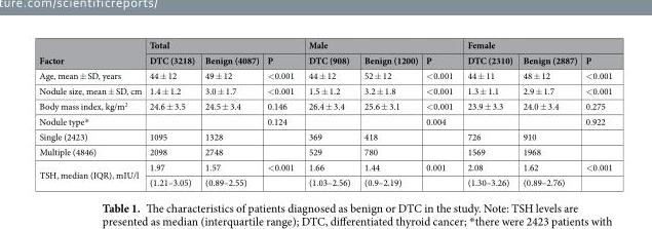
<table><thead><tr><td rowspan="2">Factor</td><td colspan="3">Total</td><td colspan="3">Male</td><td colspan="3">Female</td></tr><tr><td>DTC (3218)</td><td>Benign (4087)</td><td>P</td><td>DTC (908)</td><td>Benign (1200)</td><td>P</td><td>DTC (2310)</td><td>Benign (2887)</td><td>P</td></tr></thead><tbody><tr><td>Age, mean ± SD, years</td><td>44 ± 12</td><td>49 ± 12</td><td>&lt;0.001</td><td>44 ± 12</td><td>52 ± 12</td><td>&lt;0.001</td><td>44 ± 11</td><td>48 ± 12</td><td>&lt;0.001</td></tr><tr><td>Nodule size, mean ± SD, cm</td><td>1.4 ± 1.2</td><td>3.0 ± 1.7</td><td>&lt;0.001</td><td>1.5 ± 1.2</td><td>3.2 ± 1.8</td><td>&lt;0.001</td><td>1.3 ± 1.1</td><td>2.9 ± 1.7</td><td>&lt;0.001</td></tr><tr><td>Body mass index, kg/m<sup>2</sup></td><td>24.6 ± 3.5</td><td>24.5 ± 3.4</td><td>0.146</td><td>26.4 ± 3.4</td><td>25.6 ± 3.1</td><td>&lt;0.001</td><td>23.9 ± 3.3</td><td>24.0 ± 3.4</td><td>0.275</td></tr><tr><td>Nodule type*</td><td></td><td></td><td>0.124</td><td></td><td></td><td>0.004</td><td></td><td></td><td>0.922</td></tr><tr><td>Single (2423)</td><td>1095</td><td>1328</td><td></td><td>369</td><td>418</td><td></td><td>726</td><td>910</td><td></td></tr><tr><td>Multiple (4846)</td><td>2098</td><td>2748</td><td></td><td>529</td><td>780</td><td></td><td>1569</td><td>1968</td><td></td></tr><tr><td rowspan="2">TSH, median (IQR), mIU/l</td><td>1.97</td><td>1.57</td><td>&lt;0.001</td><td>1.66</td><td>1.44</td><td>0.001</td><td>2.08</td><td>1.62</td><td>&lt;0.001</td></tr><tr><td>(1.21–3.05)</td><td>(0.89–2.55)</td><td></td><td>(1.03–2.56)</td><td>(0.9–2.19)</td><td></td><td>(1.30–3.26)</td><td>(0.89–2.76)</td><td></td></tr></tbody></table>